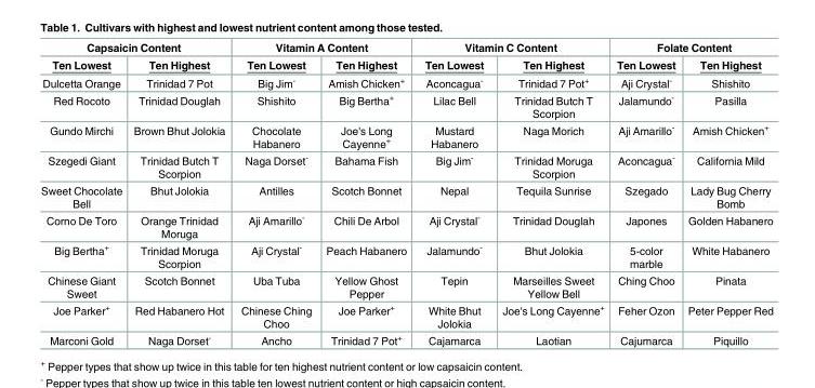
<table><thead><tr><td colspan="2">Capsaicin Content</td><td colspan="2">Vitamin A Content</td><td colspan="2">Vitamin C Content</td><td colspan="2">Folate Content</td></tr><tr><td>Ten Lowest</td><td>Ten Highest</td><td>Ten Lowest</td><td>Ten Highest</td><td>Ten Lowest</td><td>Ten Highest</td><td>Ten Lowest</td><td>Ten Highest</td></tr></thead><tbody><tr><td>Dulcetta Orange</td><td>Trinidad 7 Pot</td><td>Big Jim<sup>-</sup></td><td>Amish Chicken<sup>+</sup></td><td>Aconcagua<sup>-</sup></td><td>Trinidad 7 Pot<sup>+</sup></td><td>Aji Crystal<sup>-</sup></td><td>Shishito</td></tr><tr><td>Red Rocoto</td><td>Trinidad Douglah</td><td>Shishito</td><td>Big Bertha<sup>+</sup></td><td>Lilac Bell</td><td>Trinidad Butch T Scorpion</td><td>Jalamundo<sup>-</sup></td><td>Pasilla</td></tr><tr><td>Gundo Mirchi</td><td>Brown Bhut Jolokia</td><td>Chocolate Habanero</td><td>Joe&#x27;s Long Cayenne<sup>+</sup></td><td>Mustard Habanero</td><td>Naga Morich</td><td>Aji Amarillo<sup>-</sup></td><td>Amish Chicken<sup>+</sup></td></tr><tr><td>Szegedi Giant</td><td>Trinidad Butch T Scorpion</td><td>Naga Dorset<sup>-</sup></td><td>Bahama Fish</td><td>Big Jim<sup>-</sup></td><td>Trinidad Moruga Scorpion</td><td>Aconcagua<sup>-</sup></td><td>California Mild</td></tr><tr><td>Sweet Chocolate Bell</td><td>Bhut Jolokia</td><td>Antilles</td><td>Scotch Bonnet</td><td>Nepal</td><td>Tequila Sunrise</td><td>Szegado</td><td>Lady Bug Cherry Bomb</td></tr><tr><td>Corno De Toro</td><td>Orange Trinidad Moruga</td><td>Aji Amarillo<sup>-</sup></td><td>Chili De Arbol</td><td>Aji Crystal<sup>-</sup></td><td>Trinidad Douglah</td><td>Japones</td><td>Golden Habanero</td></tr><tr><td>Big Bertha<sup>+</sup></td><td>Trinidad Moruga Scorpion</td><td>Aji Crystal<sup>-</sup></td><td>Peach Habanero</td><td>Jalamundo<sup>-</sup></td><td>Bhut Jolokia</td><td>5-color marble</td><td>White Habanero</td></tr><tr><td>Chinese Giant Sweet</td><td>Scotch Bonnet</td><td>Uba Tuba</td><td>Yellow Ghost Pepper</td><td>Tepin</td><td>Marseilles Sweet Yellow Bell</td><td>Ching Choo</td><td>Pinata</td></tr><tr><td>Joe Parker<sup>+</sup></td><td>Red Habanero Hot</td><td>Chinese Ching Choo</td><td>Joe Parker<sup>+</sup></td><td>White Bhut Jolokia</td><td>Joe&#x27;s Long Cayenne<sup>+</sup></td><td>Feher Ozon</td><td>Peter Pepper Red</td></tr><tr><td>Marconi Gold</td><td>Naga Dorset<sup>-</sup></td><td>Ancho</td><td>Trinidad 7 Pot<sup>+</sup></td><td>Cajamarca</td><td>Laotian</td><td>Cajumarca</td><td>Piquillo</td></tr></tbody></table>